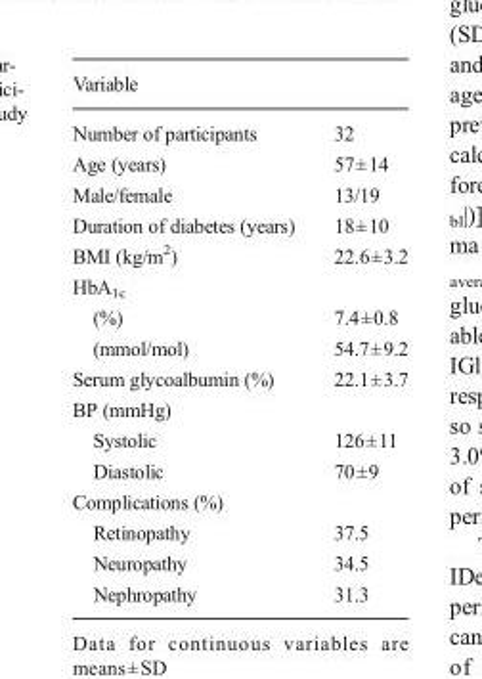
<table><thead><tr><td colspan="2">Variable</td></tr><tr><td>Number of participants</td><td>32</td></tr></thead><tbody><tr><td>Age (years)</td><td>57±14</td></tr><tr><td>Male/female</td><td>13/19</td></tr><tr><td>Duration of diabetes (years)</td><td>18±10</td></tr><tr><td>BMI (kg/m<sup>2</sup>)</td><td>22.6±3.2</td></tr><tr><td colspan="2">HbA<sub>1c</sub></td></tr><tr><td>(%)</td><td>7.4±0.8</td></tr><tr><td>(mmol/mol)</td><td>54.7±9.2</td></tr><tr><td>Serum glycoalbumin (%)</td><td>22.1±3.7</td></tr><tr><td colspan="2">BP (mmHg)</td></tr><tr><td>Systolic</td><td>126±11</td></tr><tr><td>Diastolic</td><td>70±9</td></tr><tr><td colspan="2">Complications (%)</td></tr><tr><td>Retinopathy</td><td>37.5</td></tr><tr><td>Neuropathy</td><td>34.5</td></tr><tr><td>Nephropathy</td><td>31.3</td></tr></tbody></table>